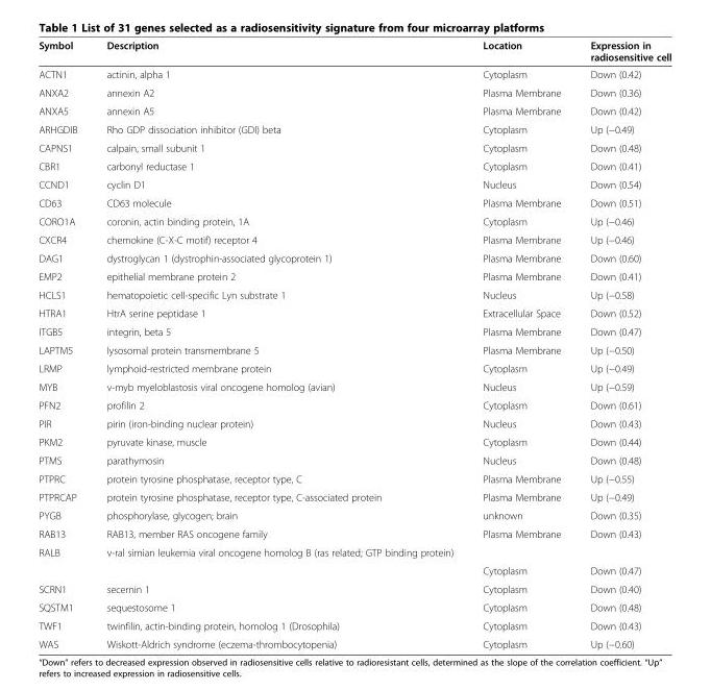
<table><thead><tr><td>Symbol</td><td>Description</td><td>Location</td><td>Expression in radiosensitive cell</td></tr></thead><tbody><tr><td>ACTN1</td><td>actinin, alpha 1</td><td>Cytoplasm</td><td>Down (0.42)</td></tr><tr><td>ANXA2</td><td>annexin A2</td><td>Plasma Membrane</td><td>Down (0.36)</td></tr><tr><td>ANXA5</td><td>annexin A5</td><td>Plasma Membrane</td><td>Down (0.42)</td></tr><tr><td>ARHGDIB</td><td>Rho GDP dissociation inhibitor (GDI) beta</td><td>Cytoplasm</td><td>Up (−0.49)</td></tr><tr><td>CAPNS1</td><td>calpain, small subunit 1</td><td>Cytoplasm</td><td>Down (0.48)</td></tr><tr><td>CBR1</td><td>carbonyl reductase 1</td><td>Cytoplasm</td><td>Down (0.41)</td></tr><tr><td>CCND1</td><td>cyclin D1</td><td>Nucleus</td><td>Down (0.54)</td></tr><tr><td>CD63</td><td>CD63 molecule</td><td>Plasma Membrane</td><td>Down (0.51)</td></tr><tr><td>CORO1A</td><td>coronin, actin binding protein, 1A</td><td>Cytoplasm</td><td>Up (−0.46)</td></tr><tr><td>CXCR4</td><td>chemokine (C-X-C motif) receptor 4</td><td>Plasma Membrane</td><td>Up (−0.46)</td></tr><tr><td>DAG1</td><td>dystroglycan 1 (dystrophin-associated glycoprotein 1)</td><td>Plasma Membrane</td><td>Down (0.60)</td></tr><tr><td>EMP2</td><td>epithelial membrane protein 2</td><td>Plasma Membrane</td><td>Down (0.41)</td></tr><tr><td>HCLS1</td><td>hematopoietic cell-specific Lyn substrate 1</td><td>Nucleus</td><td>Up (−0.58)</td></tr><tr><td>HTRA1</td><td>HtrA serine peptidase 1</td><td>Extracellular Space</td><td>Down (0.52)</td></tr><tr><td>ITGB5</td><td>integrin, beta 5</td><td>Plasma Membrane</td><td>Down (0.47)</td></tr><tr><td>LAPTM5</td><td>lysosomal protein transmembrane 5</td><td>Plasma Membrane</td><td>Up (−0.50)</td></tr><tr><td>LRMP</td><td>lymphoid-restricted membrane protein</td><td>Cytoplasm</td><td>Up (−0.49)</td></tr><tr><td>MYB</td><td>v-myb myeloblastosis viral oncogene homolog (avian)</td><td>Nucleus</td><td>Up (−0.59)</td></tr><tr><td>PFN2</td><td>profilin 2</td><td>Cytoplasm</td><td>Down (0.61)</td></tr><tr><td>PIR</td><td>pirin (iron-binding nuclear protein)</td><td>Nucleus</td><td>Down (0.43)</td></tr><tr><td>PKM2</td><td>pyruvate kinase, muscle</td><td>Cytoplasm</td><td>Down (0.44)</td></tr><tr><td>PTMS</td><td>parathymosin</td><td>Nucleus</td><td>Down (0.48)</td></tr><tr><td>PTPRC</td><td>protein tyrosine phosphatase, receptor type, C</td><td>Plasma Membrane</td><td>Up (−0.55)</td></tr><tr><td>PTPRCAP</td><td>protein tyrosine phosphatase, receptor type, C-associated protein</td><td>Plasma Membrane</td><td>Up (−0.49)</td></tr><tr><td>PYGB</td><td>phosphorylase, glycogen; brain</td><td>unknown</td><td>Down (0.35)</td></tr><tr><td>RAB13</td><td>RAB13, member RAS oncogene family</td><td>Plasma Membrane</td><td>Down (0.43)</td></tr><tr><td rowspan="2">RALB</td><td>v-ral simian leukemia viral oncogene homolog B (ras related; GTP binding protein)</td><td></td><td></td></tr><tr><td></td><td>Cytoplasm</td><td>Down (0.47)</td></tr><tr><td>SCRN1</td><td>secernin 1</td><td>Cytoplasm</td><td>Down (0.40)</td></tr><tr><td>SQSTM1</td><td>sequestosome 1</td><td>Cytoplasm</td><td>Down (0.48)</td></tr><tr><td>TWF1</td><td>twinfilin, actin-binding protein, homolog 1 (Drosophila)</td><td>Cytoplasm</td><td>Down (0.43)</td></tr><tr><td>WAS</td><td>Wiskott-Aldrich syndrome (eczema-thrombocytopenia)</td><td>Cytoplasm</td><td>Up (−0.60)</td></tr></tbody></table>